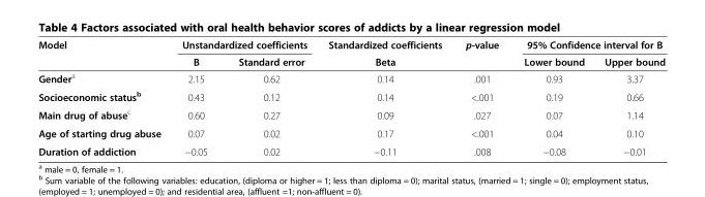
<table><thead><tr><td rowspan="2">Model</td><td colspan="2">Unstandardized coefficients</td><td rowspan="2">Standardized coefficients Beta</td><td rowspan="2">p-value</td><td colspan="2">95% Confidence interval for B</td></tr><tr><td>B</td><td>Standard error</td><td>Lower bound</td><td>Upper bound</td></tr></thead><tbody><tr><td>Gender<sup>a</sup></td><td>2.15</td><td>0.62</td><td>0.14</td><td>.001</td><td>0.93</td><td>3.37</td></tr><tr><td>Socioeconomic status<sup>b</sup></td><td>0.43</td><td>0.12</td><td>0.14</td><td>&lt;.001</td><td>0.19</td><td>0.66</td></tr><tr><td>Main drug of abuse<sup>c</sup></td><td>0.60</td><td>0.27</td><td>0.09</td><td>.027</td><td>0.07</td><td>1.14</td></tr><tr><td>Age of starting drug abuse</td><td>0.07</td><td>0.02</td><td>0.17</td><td>&lt;.001</td><td>0.04</td><td>0.10</td></tr><tr><td>Duration of addiction</td><td>−0.05</td><td>0.02</td><td>−0.11</td><td>.008</td><td>−0.08</td><td>−0.01</td></tr></tbody></table>